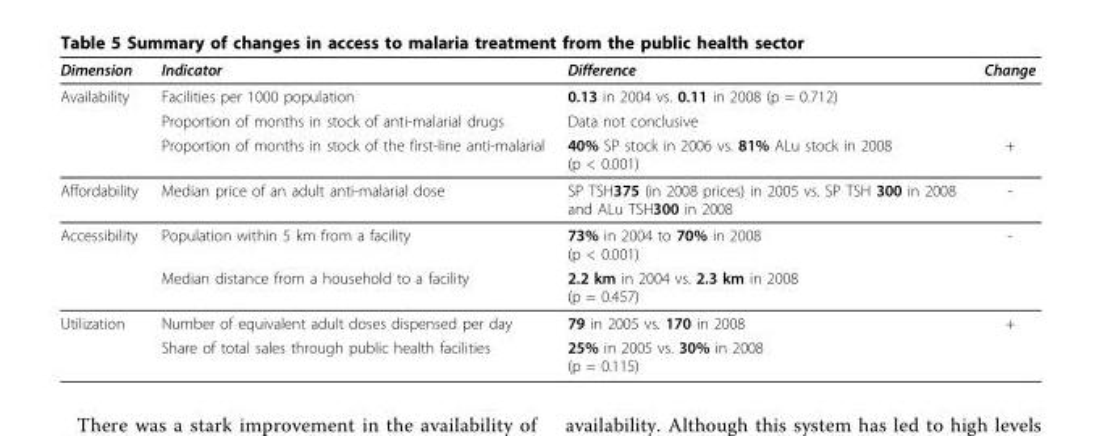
<table><thead><tr><td>Dimension</td><td>Indicator</td><td>Difference</td><td>Change</td></tr></thead><tbody><tr><td rowspan="3">Availability</td><td>Facilities per 1000 population</td><td>0.13 in 2004 vs. 0.11 in 2008 (p = 0.712)</td><td></td></tr><tr><td>Proportion of months in stock of anti-malarial drugs</td><td>Data not conclusive</td><td></td></tr><tr><td>Proportion of months in stock of the first-line anti-malarial</td><td>40% SP stock in 2006 vs. 81% ALu stock in 2008 (p &lt; 0.001)</td><td>+</td></tr><tr><td>Affordability</td><td>Median price of an adult anti-malarial dose</td><td>SP TSH375 (in 2008 prices) in 2005 vs. SP TSH 300 in 2008 and ALu TSH300 in 2008</td><td>-</td></tr><tr><td rowspan="2">Accessibility</td><td>Population within 5 km from a facility</td><td>73% in 2004 to 70% in 2008 (p &lt; 0.001)</td><td>-</td></tr><tr><td>Median distance from a household to a facility</td><td>2.2 km in 2004 vs. 2.3 km in 2008 (p = 0.457)</td><td></td></tr><tr><td rowspan="2">Utilization</td><td>Number of equivalent adult doses dispensed per day</td><td>79 in 2005 vs. 170 in 2008</td><td>+</td></tr><tr><td>Share of total sales through public health facilities</td><td>25% in 2005 vs. 30% in 2008 (p = 0.115)</td><td></td></tr></tbody></table>